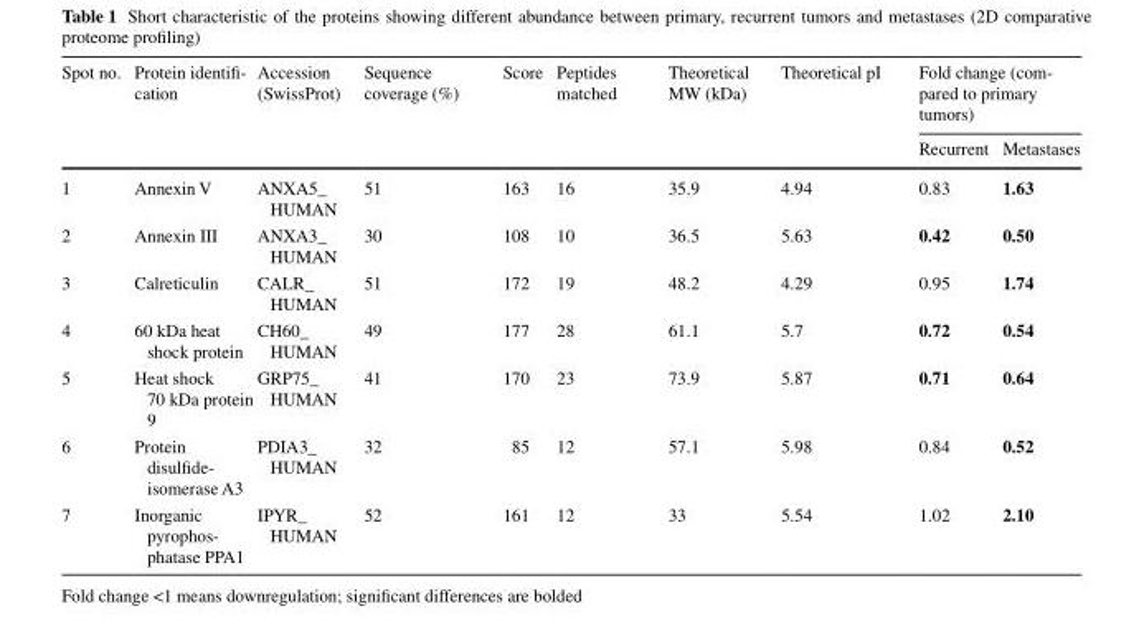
<table><thead><tr><td rowspan="2">Spot no.</td><td rowspan="2">Protein identifi- cation</td><td rowspan="2">Accession (SwissProt)</td><td rowspan="2">Sequence coverage (%)</td><td rowspan="2">Score</td><td rowspan="2">Peptides matched</td><td rowspan="2">Theoretical MW (kDa)</td><td rowspan="2">Theoretical pI</td><td colspan="2">Fold change (com- pared to primary tumors)</td></tr><tr><td>Recurrent</td><td>Metastases</td></tr></thead><tbody><tr><td>1</td><td>Annexin V</td><td>ANXA5_ HUMAN</td><td>51</td><td>163</td><td>16</td><td>35.9</td><td>4.94</td><td>0.83</td><td>1.63</td></tr><tr><td>2</td><td>Annexin III</td><td>ANXA3_ HUMAN</td><td>30</td><td>108</td><td>10</td><td>36.5</td><td>5.63</td><td>0.42</td><td>0.50</td></tr><tr><td>3</td><td>Calreticulin</td><td>CALR_ HUMAN</td><td>51</td><td>172</td><td>19</td><td>48.2</td><td>4.29</td><td>0.95</td><td>1.74</td></tr><tr><td>4</td><td>60 kDa heat shock protein</td><td>CH60_ HUMAN</td><td>49</td><td>177</td><td>28</td><td>61.1</td><td>5.7</td><td>0.72</td><td>0.54</td></tr><tr><td>5</td><td>Heat shock 70 kDa protein 9</td><td>GRP75_ HUMAN</td><td>41</td><td>170</td><td>23</td><td>73.9</td><td>5.87</td><td>0.71</td><td>0.64</td></tr><tr><td>6</td><td>Protein disulfide- isomerase A3</td><td>PDIA3_ HUMAN</td><td>32</td><td>85</td><td>12</td><td>57.1</td><td>5.98</td><td>0.84</td><td>0.52</td></tr><tr><td>7</td><td>Inorganic pyrophos- phatase PPA1</td><td>IPYR_ HUMAN</td><td>52</td><td>161</td><td>12</td><td>33</td><td>5.54</td><td>1.02</td><td>2.10</td></tr></tbody></table>